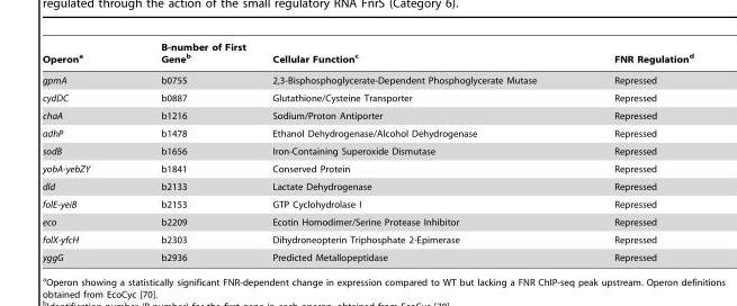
<table><thead><tr><td>Operon<sup>a</sup></td><td>B-number of First Gene<sup>b</sup></td><td>Cellular Function<sup>c</sup></td><td>FNR Regulation<sup>d</sup></td></tr></thead><tbody><tr><td>gpmA</td><td>b0755</td><td>2,3-Bisphosphoglycerate-Dependent Phosphoglycerate Mutase</td><td>Repressed</td></tr><tr><td>cydDC</td><td>b0887</td><td>Glutathione/Cysteine Transporter</td><td>Repressed</td></tr><tr><td>chaA</td><td>b1216</td><td>Sodium/Proton Antiporter</td><td>Repressed</td></tr><tr><td>adhP</td><td>b1478</td><td>Ethanol Dehydrogenase/Alcohol Dehydrogenase</td><td>Repressed</td></tr><tr><td>sodB</td><td>b1656</td><td>Iron-Containing Superoxide Dismutase</td><td>Repressed</td></tr><tr><td>yobA-yebZY</td><td>b1841</td><td>Conserved Protein</td><td>Repressed</td></tr><tr><td>dld</td><td>b2133</td><td>Lactate Dehydrogenase</td><td>Repressed</td></tr><tr><td>folE-yeiB</td><td>b2153</td><td>GTP Cyclohydrolase I</td><td>Repressed</td></tr><tr><td>eco</td><td>b2209</td><td>Ecotin Homodimer/Serine Protease Inhibitor</td><td>Repressed</td></tr><tr><td>folX-yfcH</td><td>b2303</td><td>Dihydroneopterin Triphosphate 2-Epimerase</td><td>Repressed</td></tr><tr><td>yggG</td><td>b2936</td><td>Predicted Metallopeptidase</td><td>Repressed</td></tr></tbody></table>